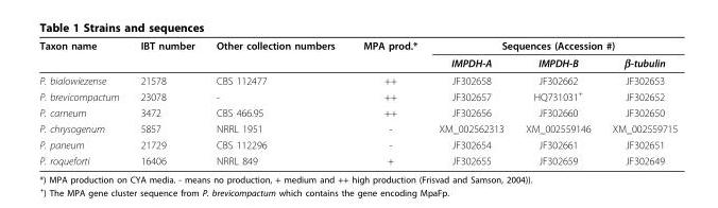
<table><thead><tr><td rowspan="2">Taxon name</td><td rowspan="2">IBT number</td><td rowspan="2">Other collection numbers</td><td rowspan="2">MPA prod.*</td><td colspan="3">Sequences (Accession #)</td></tr><tr><td>IMPDH-A</td><td>IMPDH-B</td><td>β-tubulin</td></tr></thead><tbody><tr><td>P. bialowiezense</td><td>21578</td><td>CBS 112477</td><td>++</td><td>JF302658</td><td>JF302662</td><td>JF302653</td></tr><tr><td>P. brevicompactum</td><td>23078</td><td>-</td><td>++</td><td>JF302657</td><td>HQ731031<sup>+</sup></td><td>JF302652</td></tr><tr><td>P. carneum</td><td>3472</td><td>CBS 466.95</td><td>++</td><td>JF302656</td><td>JF302660</td><td>JF302650</td></tr><tr><td>P. chrysogenum</td><td>5857</td><td>NRRL 1951</td><td>-</td><td>XM_002562313</td><td>XM_002559146</td><td>XM_002559715</td></tr><tr><td>P. paneum</td><td>21729</td><td>CBS 112296</td><td>-</td><td>JF302654</td><td>JF302661</td><td>JF302651</td></tr><tr><td>P. roqueforti</td><td>16406</td><td>NRRL 849</td><td>+</td><td>JF302655</td><td>JF302659</td><td>JF302649</td></tr></tbody></table>